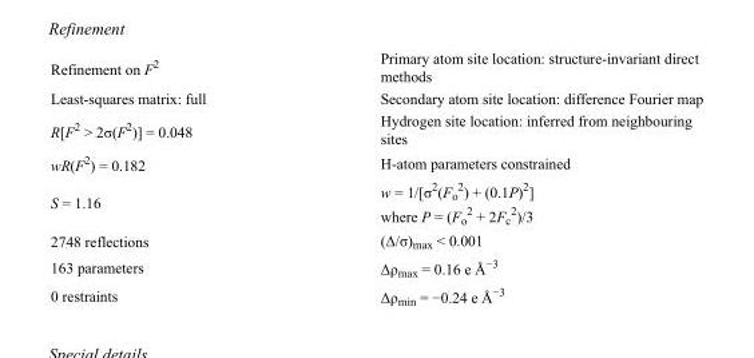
<table><tbody><tr><td>Refinement on F<sup>2</sup></td><td>Primary atom site location: structure-invariant direct methods</td></tr><tr><td>Least-squares matrix: full</td><td>Secondary atom site location: difference Fourier map</td></tr><tr><td>R[F<sup>2</sup> &gt; 2σ(F<sup>2</sup>)] = 0.048</td><td>Hydrogen site location: inferred from neighbouring sites</td></tr><tr><td>wR(F<sup>2</sup>) = 0.182</td><td>H-atom parameters constrained</td></tr><tr><td>S = 1.16</td><td>w = 1/[σ<sup>2</sup>(F<sub>o</sub> <sup>2</sup>) + (0.1P)<sup>2</sup>] where P = (F<sub>o</sub> <sup>2</sup> + 2F<sub>c</sub> <sup>2</sup>)/3</td></tr><tr><td>2748 reflections</td><td>(Δ/σ)<sub>max</sub> &lt; 0.001</td></tr><tr><td>163 parameters</td><td>Δρ<sub>max</sub> = 0.16 e Å<sup>−3</sup></td></tr><tr><td>0 restraints</td><td>Δρ<sub>min</sub> = −0.24 e Å<sup>−3</sup></td></tr></tbody></table>